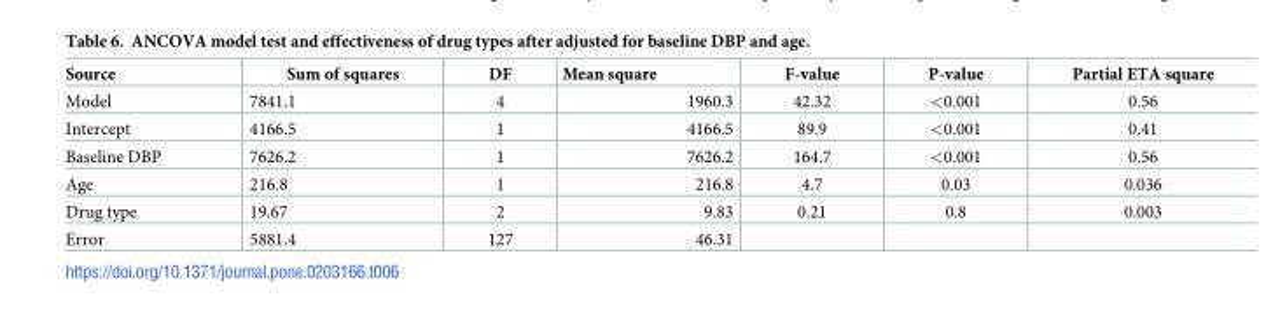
<table><thead><tr><td>Source</td><td>Sum of squares</td><td>DF</td><td>Mean square</td><td>F-value</td><td>P-value</td><td>Partial ETA square</td></tr></thead><tbody><tr><td>Model</td><td>7841.1</td><td>4</td><td>1960.3</td><td>42.32</td><td>&lt;0.001</td><td>0.56</td></tr><tr><td>Intercept</td><td>4166.5</td><td>1</td><td>4166.5</td><td>89.9</td><td>&lt;0.001</td><td>0.41</td></tr><tr><td>Baseline DBP</td><td>7626.2</td><td>1</td><td>7626.2</td><td>164.7</td><td>&lt;0.001</td><td>0.56</td></tr><tr><td>Age</td><td>216.8</td><td>1</td><td>216.8</td><td>4.7</td><td>0.03</td><td>0.036</td></tr><tr><td>Drug type</td><td>19.67</td><td>2</td><td>9.83</td><td>0.21</td><td>0.8</td><td>0.003</td></tr><tr><td>Error</td><td>5881.4</td><td>127</td><td>46.31</td><td></td><td></td><td></td></tr></tbody></table>